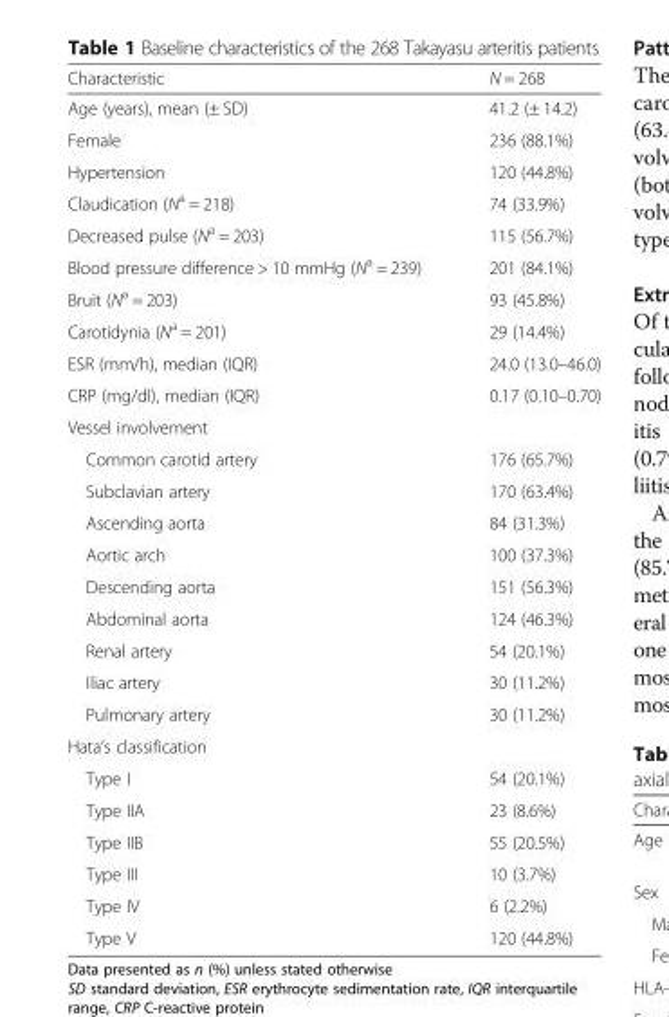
<table><thead><tr><td>Characteristic</td><td>N = 268</td></tr></thead><tbody><tr><td>Age (years), mean (± SD)</td><td>41.2 (± 14.2)</td></tr><tr><td>Female</td><td>236 (88.1%)</td></tr><tr><td>Hypertension</td><td>120 (44.8%)</td></tr><tr><td>Claudication (N<sup>a</sup> = 218)</td><td>74 (33.9%)</td></tr><tr><td>Decreased pulse (N<sup>a</sup> = 203)</td><td>115 (56.7%)</td></tr><tr><td>Blood pressure difference &gt; 10 mmHg (N<sup>a</sup> = 239)</td><td>201 (84.1%)</td></tr><tr><td>Bruit (N<sup>a</sup> = 203)</td><td>93 (45.8%)</td></tr><tr><td>Carotidynia (N<sup>a</sup> = 201)</td><td>29 (14.4%)</td></tr><tr><td>ESR (mm/h), median (IQR)</td><td>24.0 (13.0–46.0)</td></tr><tr><td>CRP (mg/dl), median (IQR)</td><td>0.17 (0.10–0.70)</td></tr><tr><td colspan="2">Vessel involvement</td></tr><tr><td>Common carotid artery</td><td>176 (65.7%)</td></tr><tr><td>Subclavian artery</td><td>170 (63.4%)</td></tr><tr><td>Ascending aorta</td><td>84 (31.3%)</td></tr><tr><td>Aortic arch</td><td>100 (37.3%)</td></tr><tr><td>Descending aorta</td><td>151 (56.3%)</td></tr><tr><td>Abdominal aorta</td><td>124 (46.3%)</td></tr><tr><td>Renal artery</td><td>54 (20.1%)</td></tr><tr><td>Iliac artery</td><td>30 (11.2%)</td></tr><tr><td>Pulmonary artery</td><td>30 (11.2%)</td></tr><tr><td colspan="2">Hata’s classification</td></tr><tr><td>Type I</td><td>54 (20.1%)</td></tr><tr><td>Type IIA</td><td>23 (8.6%)</td></tr><tr><td>Type IIB</td><td>55 (20.5%)</td></tr><tr><td>Type III</td><td>10 (3.7%)</td></tr><tr><td>Type IV</td><td>6 (2.2%)</td></tr><tr><td>Type V</td><td>120 (44.8%)</td></tr></tbody></table>